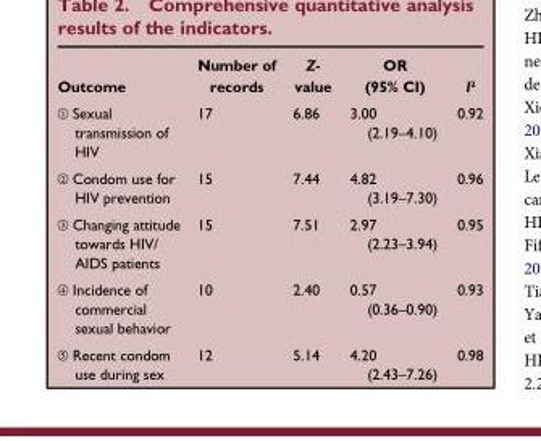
<table><thead><tr><td>Outcome</td><td>Number of records</td><td>Z- value</td><td>OR (95% CI)</td><td>I²</td></tr></thead><tbody><tr><td>① Sexual transmission of HIV</td><td>17</td><td>6.86</td><td>3.00 (2.19–4.10)</td><td>0.92</td></tr><tr><td>② Condom use for HIV prevention</td><td>15</td><td>7.44</td><td>4.82 (3.19–7.30)</td><td>0.96</td></tr><tr><td>③ Changing attitude towards HIV/ AIDS patients</td><td>15</td><td>7.51</td><td>2.97 (2.23–3.94)</td><td>0.95</td></tr><tr><td>④ Incidence of commercial sexual behavior</td><td>10</td><td>2.40</td><td>0.57 (0.36–0.90)</td><td>0.93</td></tr><tr><td>⑤ Recent condom use during sex</td><td>12</td><td>5.14</td><td>4.20 (2.43–7.26)</td><td>0.98</td></tr></tbody></table>